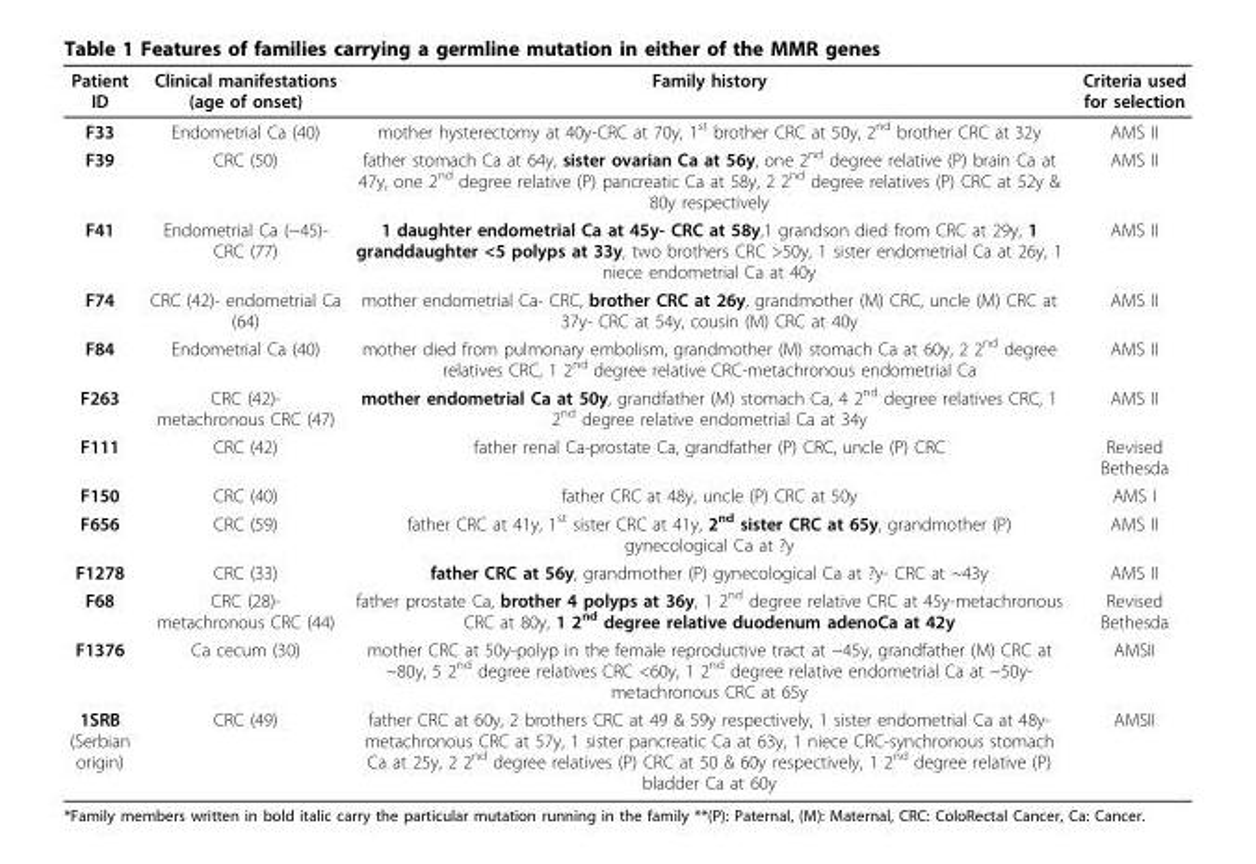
<table><thead><tr><td>Patient ID</td><td>Clinical manifestations (age of onset)</td><td>Family history</td><td>Criteria used for selection</td></tr></thead><tbody><tr><td>F33</td><td>Endometrial Ca (40)</td><td>mother hysterectomy at 40y-CRC at 70y, 1<sup>st</sup> brother CRC at 50y, 2<sup>nd</sup> brother CRC at 32y</td><td>AMS II</td></tr><tr><td>F39</td><td>CRC (50)</td><td>father stomach Ca at 64y, sister ovarian Ca at 56y, one 2<sup>nd</sup> degree relative (P) brain Ca at 47y, one 2<sup>nd</sup> degree relative (P) pancreatic Ca at 58y, 2 2<sup>nd</sup> degree relatives (P) CRC at 52y &amp; 80y respectively</td><td>AMS II</td></tr><tr><td>F41</td><td>Endometrial Ca (~45)- CRC (77)</td><td>1 daughter endometrial Ca at 45y- CRC at 58y,1 grandson died from CRC at 29y, 1 granddaughter &lt;5 polyps at 33y, two brothers CRC &gt;50y, 1 sister endometrial Ca at 26y, 1 niece endometrial Ca at 40y</td><td>AMS II</td></tr><tr><td>F74</td><td>CRC (42)- endometrial Ca (64)</td><td>mother endometrial Ca- CRC, brother CRC at 26y, grandmother (M) CRC, uncle (M) CRC at 37y- CRC at 54y, cousin (M) CRC at 40y</td><td>AMS II</td></tr><tr><td>F84</td><td>Endometrial Ca (40)</td><td>mother died from pulmonary embolism, grandmother (M) stomach Ca at 60y, 2 2<sup>nd</sup> degree relatives CRC, 1 2<sup>nd</sup> degree relative CRC-metachronous endometrial Ca</td><td>AMS II</td></tr><tr><td>F263</td><td>CRC (42)- metachronous CRC (47)</td><td>mother endometrial Ca at 50y, grandfather (M) stomach Ca, 4 2<sup>nd</sup> degree relatives CRC, 1 2<sup>nd</sup> degree relative endometrial Ca at 34y</td><td>AMS II</td></tr><tr><td>F111</td><td>CRC (42)</td><td>father renal Ca-prostate Ca, grandfather (P) CRC, uncle (P) CRC</td><td>Revised Bethesda</td></tr><tr><td>F150</td><td>CRC (40)</td><td>father CRC at 48y, uncle (P) CRC at 50y</td><td>AMS I</td></tr><tr><td>F656</td><td>CRC (59)</td><td>father CRC at 41y, 1<sup>st</sup> sister CRC at 41y, 2<sup>nd</sup> sister CRC at 65y, grandmother (P) gynecological Ca at ?y</td><td>AMS II</td></tr><tr><td>F1278</td><td>CRC (33)</td><td>father CRC at 56y, grandmother (P) gynecological Ca at ?y- CRC at ~43y</td><td>AMS II</td></tr><tr><td>F68</td><td>CRC (28)- metachronous CRC (44)</td><td>father prostate Ca, brother 4 polyps at 36y, 1 2<sup>nd</sup> degree relative CRC at 45y-metachronous CRC at 80y, 1 2<sup>nd</sup> degree relative duodenum adenoCa at 42y</td><td>Revised Bethesda</td></tr><tr><td>F1376</td><td>Ca cecum (30)</td><td>mother CRC at 50y-polyp in the female reproductive tract at ~45y, grandfather (M) CRC at ~80y, 5 2<sup>nd</sup> degree relatives CRC &lt;60y, 1 2<sup>nd</sup> degree relative endometrial Ca at ~50y- metachronous CRC at 65y</td><td>AMSII</td></tr><tr><td>1SRB (Serbian origin)</td><td>CRC (49)</td><td>father CRC at 60y, 2 brothers CRC at 49 &amp; 59y respectively, 1 sister endometrial Ca at 48y- metachronous CRC at 57y, 1 sister pancreatic Ca at 63y, 1 niece CRC-synchronous stomach Ca at 25y, 2 2<sup>nd</sup> degree relatives (P) CRC at 50 &amp; 60y respectively, 1 2<sup>nd</sup> degree relative (P) bladder Ca at 60y</td><td>AMSII</td></tr></tbody></table>